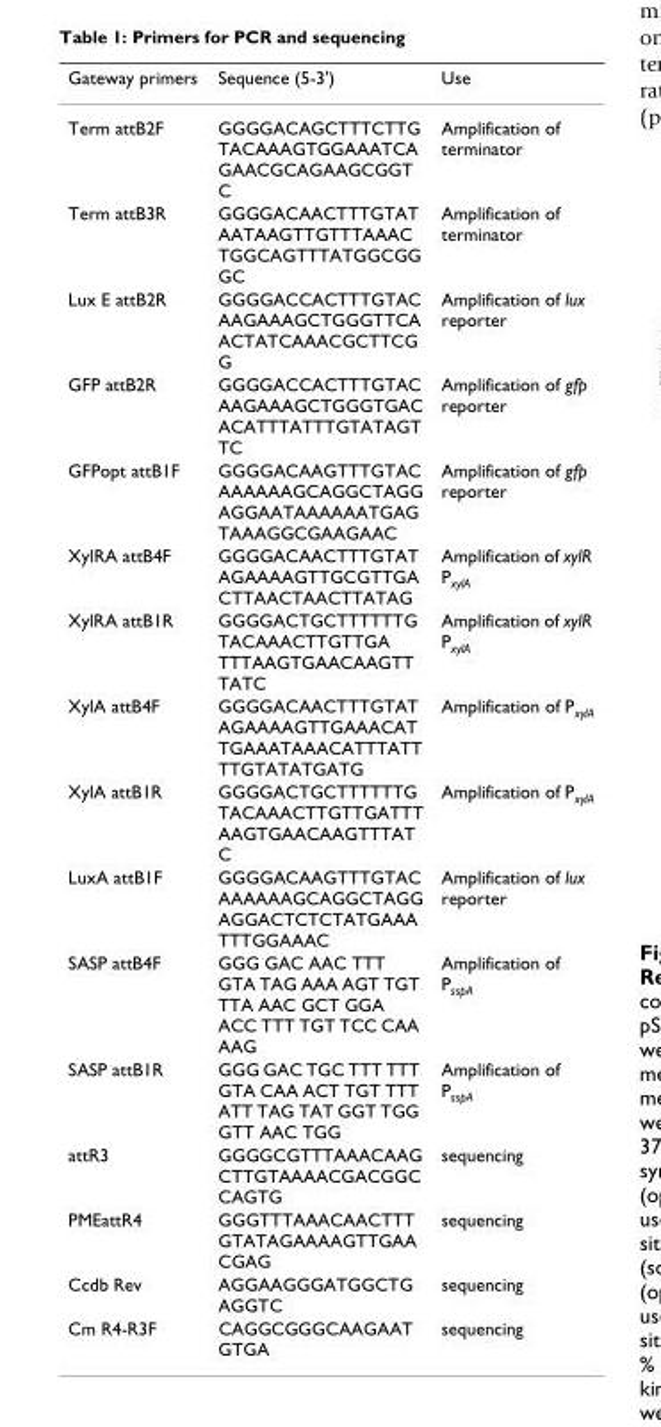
<table><thead><tr><td>Gateway primers</td><td>Sequence (5-3&#x27;)</td><td>Use</td></tr></thead><tbody><tr><td>Term attB2F</td><td>GGGGACAGCTTTCTTG TACAAAGTGGAAATCA GAACGCAGAAGCGGT C</td><td>Amplification of terminator</td></tr><tr><td>Term attB3R</td><td>GGGGACAACTTTGTAT AATAAGTTGTTTAAAC TGGCAGTTTATGGCGG GC</td><td>Amplification of terminator</td></tr><tr><td>Lux E attB2R</td><td>GGGGACCACTTTGTAC AAGAAAGCTGGGTTCA ACTATCAAACGCTTCG G</td><td>Amplification of lux reporter</td></tr><tr><td>GFP attB2R</td><td>GGGGACCACTTTGTAC AAGAAAGCTGGGTGAC ACATTTATTTGTATAGT TC</td><td>Amplification of gfp reporter</td></tr><tr><td>GFPopt attB1F</td><td>GGGGACAAGTTTGTAC AAAAAAGCAGGCTAGG AGGAATAAAAAATGAG TAAAGGCGAAGAAC</td><td>Amplification of gfp reporter</td></tr><tr><td>XylRA attB4F</td><td>GGGGACAACTTTGTAT AGAAAAGTTGCGTTGA CTTAACTAACTTATAG</td><td>Amplification of xylR P<sub>xylA</sub></td></tr><tr><td>XylRA attB1R</td><td>GGGGACTGCTTTTTTG TACAAACTTGTTGA TTTAAGTGAACAAGTT TATC</td><td>Amplification of xylR P<sub>xylA</sub></td></tr><tr><td>XylA attB4F</td><td>GGGGACAACTTTGTAT AGAAAAGTTGAAACAT TGAAATAAACATTTATT TTGTATATGATG</td><td>Amplification of P<sub>xylA</sub></td></tr><tr><td>XylA attB1R</td><td>GGGGACTGCTTTTTTG TACAAACTTGTTGATTT AAGTGAACAAGTTTAT C</td><td>Amplification of P<sub>xylA</sub></td></tr><tr><td>LuxA attB1F</td><td>GGGGACAAGTTTGTAC AAAAAAGCAGGCTAGG AGGACTCTCTATGAAA TTTGGAAAC</td><td>Amplification of lux reporter</td></tr><tr><td>SASP attB4F</td><td>GGG GAC AAC TTT GTA TAG AAA AGT TGT TTA AAC GCT GGA ACC TTT TGT TCC CAA AAG</td><td>Amplification of P<sub>sspA</sub></td></tr><tr><td>SASP attB1R</td><td>GGG GAC TGC TTT TTT GTA CAA ACT TGT TTT ATT TAG TAT GGT TGG GTT AAC TGG</td><td>Amplification of P<sub>sspA</sub></td></tr><tr><td>attR3</td><td>GGGGCGTTTAAACAAG CTTGTAAAACGACGGC CAGTG</td><td>sequencing</td></tr><tr><td>PMEattR4</td><td>GGGTTTAAACAACTTT GTATAGAAAAGTTGAA CGAG</td><td>sequencing</td></tr><tr><td>Ccdb Rev</td><td>AGGAAGGGATGGCTG AGGTC</td><td>sequencing</td></tr><tr><td>Cm R4-R3F</td><td>CAGGCGGGCAAGAAT GTGA</td><td>sequencing</td></tr></tbody></table>